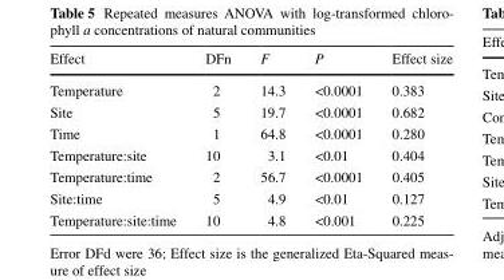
<table><thead><tr><td>Effect</td><td>DFn</td><td>F</td><td>P</td><td>Effect size</td></tr></thead><tbody><tr><td>Temperature</td><td>2</td><td>14.3</td><td>&lt;0.0001</td><td>0.383</td></tr><tr><td>Site</td><td>5</td><td>19.7</td><td>&lt;0.0001</td><td>0.682</td></tr><tr><td>Time</td><td>1</td><td>64.8</td><td>&lt;0.0001</td><td>0.280</td></tr><tr><td>Temperature:site</td><td>10</td><td>3.1</td><td>&lt;0.01</td><td>0.404</td></tr><tr><td>Temperature:time</td><td>2</td><td>56.7</td><td>&lt;0.0001</td><td>0.405</td></tr><tr><td>Site:time</td><td>5</td><td>4.9</td><td>&lt;0.01</td><td>0.127</td></tr><tr><td>Temperature:site:time</td><td>10</td><td>4.8</td><td>&lt;0.001</td><td>0.225</td></tr></tbody></table>